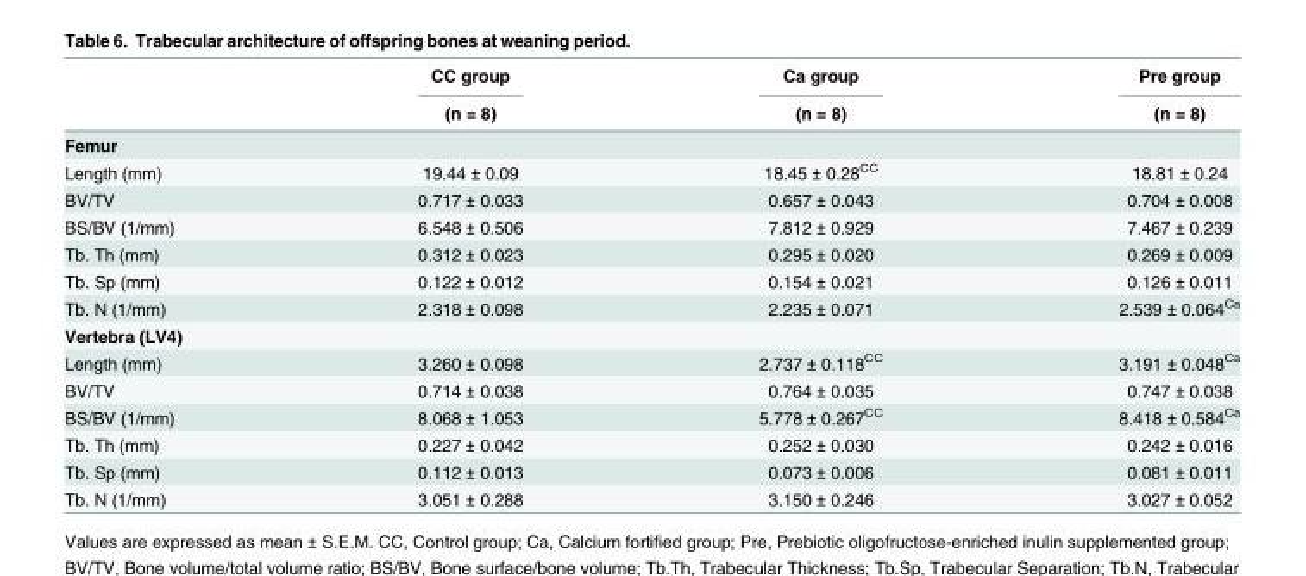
<table><thead><tr><td rowspan="2"></td><td rowspan="2">CC group (n = 8)</td><td rowspan="2">Ca group (n = 8)</td><td rowspan="2">Pre group (n = 8)</td></tr><tr></tr></thead><tbody><tr><td colspan="4">Femur</td></tr><tr><td>Length (mm)</td><td>19.44 ± 0.09</td><td>18.45 ± 0.28<sup>CC</sup></td><td>18.81 ± 0.24</td></tr><tr><td>BV/TV</td><td>0.717 ± 0.033</td><td>0.657 ± 0.043</td><td>0.704 ± 0.008</td></tr><tr><td>BS/BV (1/mm)</td><td>6.548 ± 0.506</td><td>7.812 ± 0.929</td><td>7.467 ± 0.239</td></tr><tr><td>Tb. Th (mm)</td><td>0.312 ± 0.023</td><td>0.295 ± 0.020</td><td>0.269 ± 0.009</td></tr><tr><td>Tb. Sp (mm)</td><td>0.122 ± 0.012</td><td>0.154 ± 0.021</td><td>0.126 ± 0.011</td></tr><tr><td>Tb. N (1/mm)</td><td>2.318 ± 0.098</td><td>2.235 ± 0.071</td><td>2.539 ± 0.064<sup>Ca</sup></td></tr><tr><td colspan="4">Vertebra (LV4)</td></tr><tr><td>Length (mm)</td><td>3.260 ± 0.098</td><td>2.737 ± 0.118<sup>CC</sup></td><td>3.191 ± 0.048<sup>Ca</sup></td></tr><tr><td>BV/TV</td><td>0.714 ± 0.038</td><td>0.764 ± 0.035</td><td>0.747 ± 0.038</td></tr><tr><td>BS/BV (1/mm)</td><td>8.068 ± 1.053</td><td>5.778 ± 0.267<sup>CC</sup></td><td>8.418 ± 0.584<sup>Ca</sup></td></tr><tr><td>Tb. Th (mm)</td><td>0.227 ± 0.042</td><td>0.252 ± 0.030</td><td>0.242 ± 0.016</td></tr><tr><td>Tb. Sp (mm)</td><td>0.112 ± 0.013</td><td>0.073 ± 0.006</td><td>0.081 ± 0.011</td></tr><tr><td>Tb. N (1/mm)</td><td>3.051 ± 0.288</td><td>3.150 ± 0.246</td><td>3.027 ± 0.052</td></tr></tbody></table>